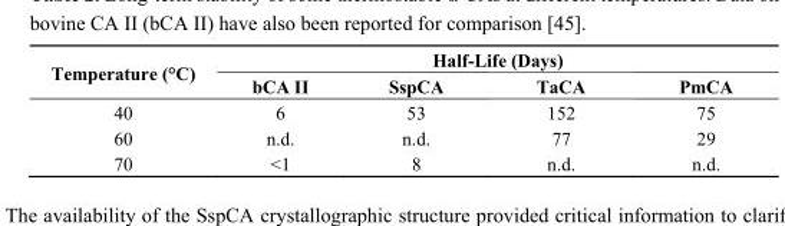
<table><thead><tr><td rowspan="2">Temperature (°C)</td><td colspan="4">Half-Life (Days)</td></tr><tr><td>bCA II</td><td>SspCA</td><td>TaCA</td><td>PmCA</td></tr></thead><tbody><tr><td>40</td><td>6</td><td>53</td><td>152</td><td>75</td></tr><tr><td>60</td><td>n.d.</td><td>n.d.</td><td>77</td><td>29</td></tr><tr><td>70</td><td>&lt;1</td><td>8</td><td>n.d.</td><td>n.d.</td></tr></tbody></table>